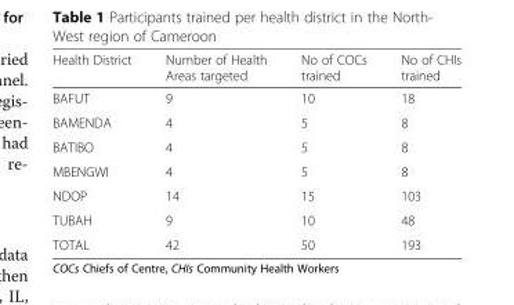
<table><thead><tr><td>Health District</td><td>Number of Health Areas targeted</td><td>No of COCs trained</td><td>No of CHIs trained</td></tr></thead><tbody><tr><td>BAFUT</td><td>9</td><td>10</td><td>18</td></tr><tr><td>BAMENDA</td><td>4</td><td>5</td><td>8</td></tr><tr><td>BATIBO</td><td>4</td><td>5</td><td>8</td></tr><tr><td>MBENGWI</td><td>4</td><td>5</td><td>8</td></tr><tr><td>NDOP</td><td>14</td><td>15</td><td>103</td></tr><tr><td>TUBAH</td><td>9</td><td>10</td><td>48</td></tr><tr><td>TOTAL</td><td>42</td><td>50</td><td>193</td></tr></tbody></table>